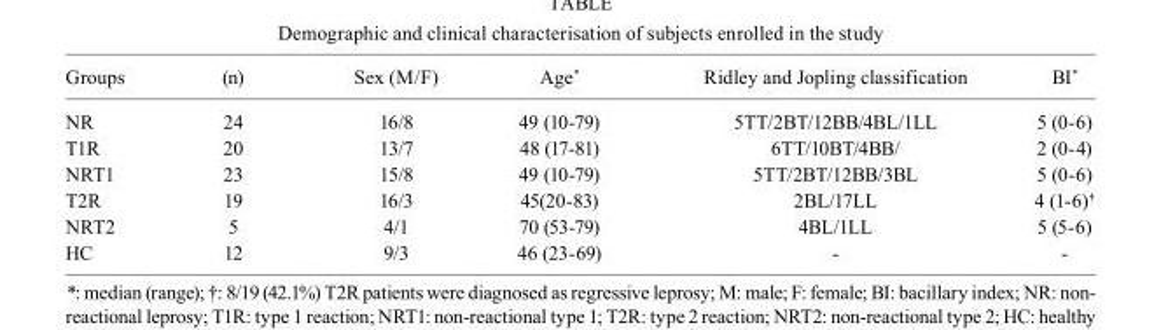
<table><thead><tr><td>Groups</td><td>(n)</td><td>Sex (M/F)</td><td>Age*</td><td>Ridley and Jopling classification</td><td>BI*</td></tr></thead><tbody><tr><td>NR</td><td>24</td><td>16/8</td><td>49 (10-79)</td><td>5TT/2BT/12BB/4BL/1LL</td><td>5 (0-6)</td></tr><tr><td>T1R</td><td>20</td><td>13/7</td><td>48 (17-81)</td><td>6TT/10BT/4BB/</td><td>2 (0-4)</td></tr><tr><td>NRT1</td><td>23</td><td>15/8</td><td>49 (10-79)</td><td>5TT/2BT/12BB/3BL</td><td>5 (0-6)</td></tr><tr><td>T2R</td><td>19</td><td>16/3</td><td>45(20-83)</td><td>2BL/17LL</td><td>4 (1-6)<sup>†</sup></td></tr><tr><td>NRT2</td><td>5</td><td>4/1</td><td>70 (53-79)</td><td>4BL/1LL</td><td>5 (5-6)</td></tr><tr><td>HC</td><td>12</td><td>9/3</td><td>46 (23-69)</td><td>-</td><td>-</td></tr></tbody></table>